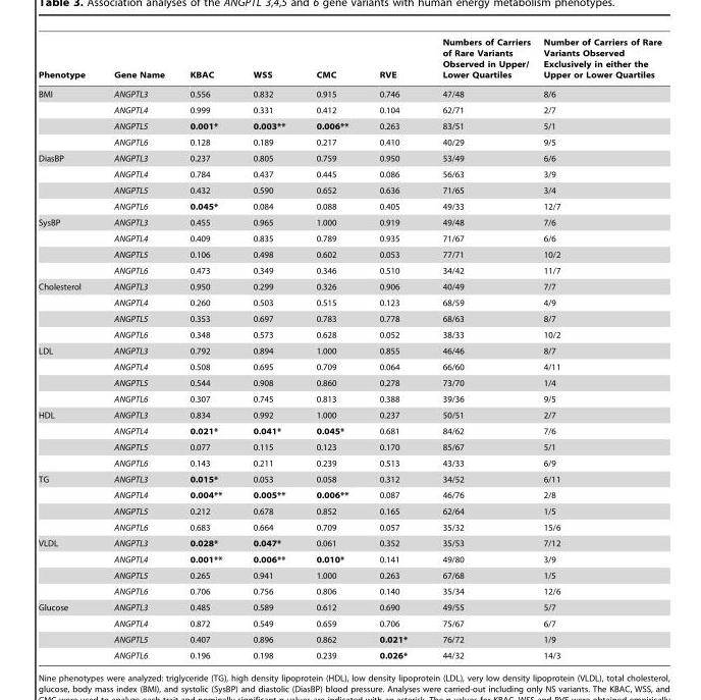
<table><thead><tr><td>Phenotype</td><td>Gene Name</td><td>KBAC</td><td>WSS</td><td>CMC</td><td>RVE</td><td>Numbers of Carriers of Rare Variants Observed in Upper/ Lower Quartiles</td><td>Number of Carriers of Rare Variants Observed Exclusively in either the Upper or Lower Quartiles</td></tr></thead><tbody><tr><td rowspan="4">BMI</td><td>ANGPTL3</td><td>0.556</td><td>0.832</td><td>0.915</td><td>0.746</td><td>47/48</td><td>8/6</td></tr><tr><td>ANGPTL4</td><td>0.999</td><td>0.331</td><td>0.412</td><td>0.104</td><td>62/71</td><td>2/7</td></tr><tr><td>ANGPTL5</td><td>0.001*</td><td>0.003**</td><td>0.006**</td><td>0.263</td><td>83/51</td><td>5/1</td></tr><tr><td>ANGPTL6</td><td>0.128</td><td>0.189</td><td>0.217</td><td>0.410</td><td>40/29</td><td>9/5</td></tr><tr><td rowspan="4">DiasBP</td><td>ANGPTL3</td><td>0.237</td><td>0.805</td><td>0.759</td><td>0.950</td><td>53/49</td><td>6/6</td></tr><tr><td>ANGPTL4</td><td>0.784</td><td>0.437</td><td>0.445</td><td>0.086</td><td>56/63</td><td>3/9</td></tr><tr><td>ANGPTL5</td><td>0.432</td><td>0.590</td><td>0.652</td><td>0.636</td><td>71/65</td><td>3/4</td></tr><tr><td>ANGPTL6</td><td>0.045*</td><td>0.084</td><td>0.088</td><td>0.405</td><td>49/33</td><td>12/7</td></tr><tr><td rowspan="4">SysBP</td><td>ANGPTL3</td><td>0.455</td><td>0.965</td><td>1.000</td><td>0.919</td><td>49/48</td><td>7/6</td></tr><tr><td>ANGPTL4</td><td>0.409</td><td>0.835</td><td>0.789</td><td>0.935</td><td>71/67</td><td>6/6</td></tr><tr><td>ANGPTL5</td><td>0.106</td><td>0.498</td><td>0.602</td><td>0.053</td><td>77/71</td><td>10/2</td></tr><tr><td>ANGPTL6</td><td>0.473</td><td>0.349</td><td>0.346</td><td>0.510</td><td>34/42</td><td>11/7</td></tr><tr><td rowspan="4">Cholesterol</td><td>ANGPTL3</td><td>0.950</td><td>0.299</td><td>0.326</td><td>0.906</td><td>40/49</td><td>7/7</td></tr><tr><td>ANGPTL4</td><td>0.260</td><td>0.503</td><td>0.515</td><td>0.123</td><td>68/59</td><td>4/9</td></tr><tr><td>ANGPTL5</td><td>0.353</td><td>0.697</td><td>0.783</td><td>0.778</td><td>68/63</td><td>8/7</td></tr><tr><td>ANGPTL6</td><td>0.348</td><td>0.573</td><td>0.628</td><td>0.052</td><td>38/33</td><td>10/2</td></tr><tr><td rowspan="4">LDL</td><td>ANGPTL3</td><td>0.792</td><td>0.894</td><td>1.000</td><td>0.855</td><td>46/46</td><td>8/7</td></tr><tr><td>ANGPTL4</td><td>0.508</td><td>0.695</td><td>0.709</td><td>0.064</td><td>66/60</td><td>4/11</td></tr><tr><td>ANGPTL5</td><td>0.544</td><td>0.908</td><td>0.860</td><td>0.278</td><td>73/70</td><td>1/4</td></tr><tr><td>ANGPTL6</td><td>0.307</td><td>0.745</td><td>0.813</td><td>0.388</td><td>39/36</td><td>9/5</td></tr><tr><td rowspan="4">HDL</td><td>ANGPTL3</td><td>0.834</td><td>0.992</td><td>1.000</td><td>0.237</td><td>50/51</td><td>2/7</td></tr><tr><td>ANGPTL4</td><td>0.021*</td><td>0.041*</td><td>0.045*</td><td>0.681</td><td>84/62</td><td>7/6</td></tr><tr><td>ANGPTL5</td><td>0.077</td><td>0.115</td><td>0.123</td><td>0.170</td><td>85/67</td><td>5/1</td></tr><tr><td>ANGPTL6</td><td>0.143</td><td>0.211</td><td>0.239</td><td>0.513</td><td>43/33</td><td>6/9</td></tr><tr><td rowspan="4">TG</td><td>ANGPTL3</td><td>0.015*</td><td>0.053</td><td>0.058</td><td>0.312</td><td>34/52</td><td>6/11</td></tr><tr><td>ANGPTL4</td><td>0.004**</td><td>0.005**</td><td>0.006**</td><td>0.087</td><td>46/76</td><td>2/8</td></tr><tr><td>ANGPTL5</td><td>0.212</td><td>0.678</td><td>0.852</td><td>0.165</td><td>62/64</td><td>1/5</td></tr><tr><td>ANGPTL6</td><td>0.683</td><td>0.664</td><td>0.709</td><td>0.057</td><td>35/32</td><td>15/6</td></tr><tr><td rowspan="4">VLDL</td><td>ANGPTL3</td><td>0.028*</td><td>0.047*</td><td>0.061</td><td>0.352</td><td>35/53</td><td>7/12</td></tr><tr><td>ANGPTL4</td><td>0.001**</td><td>0.006**</td><td>0.010*</td><td>0.141</td><td>49/80</td><td>3/9</td></tr><tr><td>ANGPTL5</td><td>0.265</td><td>0.941</td><td>1.000</td><td>0.263</td><td>67/68</td><td>1/5</td></tr><tr><td>ANGPTL6</td><td>0.706</td><td>0.756</td><td>0.806</td><td>0.140</td><td>35/34</td><td>12/6</td></tr><tr><td rowspan="4">Glucose</td><td>ANGPTL3</td><td>0.485</td><td>0.589</td><td>0.612</td><td>0.690</td><td>49/55</td><td>5/7</td></tr><tr><td>ANGPTL4</td><td>0.872</td><td>0.549</td><td>0.659</td><td>0.706</td><td>75/67</td><td>6/7</td></tr><tr><td>ANGPTL5</td><td>0.407</td><td>0.896</td><td>0.862</td><td>0.021*</td><td>76/72</td><td>1/9</td></tr><tr><td>ANGPTL6</td><td>0.196</td><td>0.198</td><td>0.239</td><td>0.026*</td><td>44/32</td><td>14/3</td></tr></tbody></table>